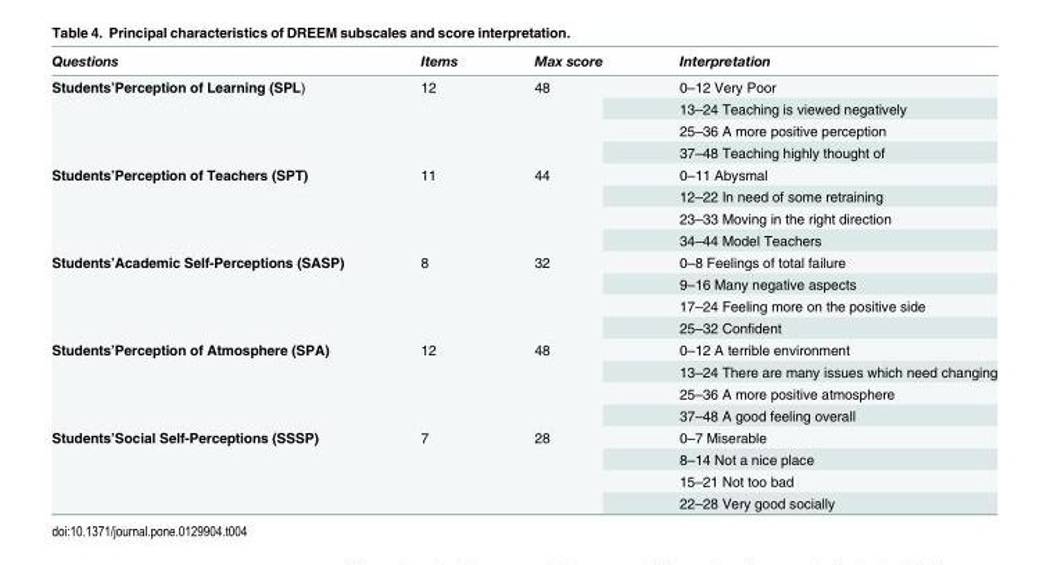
<table><thead><tr><td>Questions</td><td>Items</td><td>Max score</td><td>Interpretation</td></tr></thead><tbody><tr><td rowspan="4">Students’Perception of Learning (SPL)</td><td rowspan="4">12</td><td rowspan="4">48</td><td>0–12 Very Poor</td></tr><tr><td>13–24 Teaching is viewed negatively</td></tr><tr><td>25–36 A more positive perception</td></tr><tr><td>37–48 Teaching highly thought of</td></tr><tr><td rowspan="4">Students’Perception of Teachers (SPT)</td><td rowspan="4">11</td><td rowspan="4">44</td><td>0–11 Abysmal</td></tr><tr><td>12–22 In need of some retraining</td></tr><tr><td>23–33 Moving in the right direction</td></tr><tr><td>34–44 Model Teachers</td></tr><tr><td rowspan="4">Students’Academic Self-Perceptions (SASP)</td><td rowspan="4">8</td><td rowspan="4">32</td><td>0–8 Feelings of total failure</td></tr><tr><td>9–16 Many negative aspects</td></tr><tr><td>17–24 Feeling more on the positive side</td></tr><tr><td>25–32 Confident</td></tr><tr><td rowspan="4">Students’Perception of Atmosphere (SPA)</td><td rowspan="4">12</td><td rowspan="4">48</td><td>0–12 A terrible environment</td></tr><tr><td>13–24 There are many issues which need changing</td></tr><tr><td>25–36 A more positive atmosphere</td></tr><tr><td>37–48 A good feeling overall</td></tr><tr><td rowspan="4">Students’Social Self-Perceptions (SSSP)</td><td rowspan="4">7</td><td rowspan="4">28</td><td>0–7 Miserable</td></tr><tr><td>8–14 Not a nice place</td></tr><tr><td>15–21 Not too bad</td></tr><tr><td>22–28 Very good socially</td></tr></tbody></table>